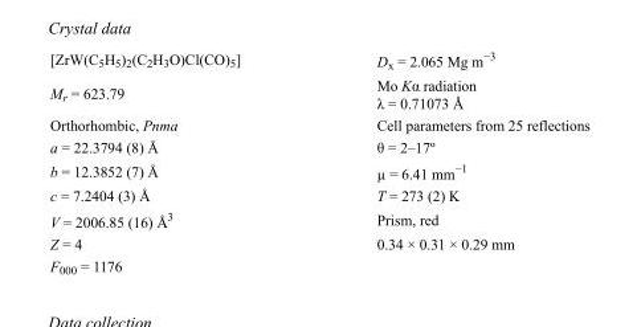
<table><tbody><tr><td>[ZrW(C<sub>5</sub>H<sub>5</sub>)<sub>2</sub>(C<sub>2</sub>H<sub>3</sub>O)Cl(CO)<sub>5</sub>]</td><td>D<sub>x</sub> = 2.065 Mg m<sup>−3</sup></td></tr><tr><td>M<sub>r</sub> = 623.79</td><td>Mo Kα radiation λ = 0.71073 Å</td></tr><tr><td>Orthorhombic, Pnma</td><td>Cell parameters from 25 reflections</td></tr><tr><td>a = 22.3794 (8) Å</td><td>θ = 2–17º</td></tr><tr><td>b = 12.3852 (7) Å</td><td>µ = 6.41 mm<sup>−1</sup></td></tr><tr><td>c = 7.2404 (3) Å</td><td>T = 273 (2) K</td></tr><tr><td>V = 2006.85 (16) Å<sup>3</sup></td><td>Prism, red</td></tr><tr><td>Z = 4</td><td>0.34 × 0.31 × 0.29 mm</td></tr><tr><td>F000 = 1176</td><td></td></tr></tbody></table>